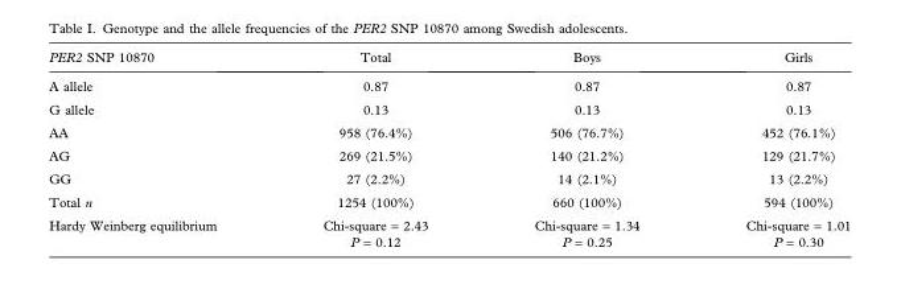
<table><thead><tr><td>PER2 SNP 10870</td><td>Total</td><td>Boys</td><td>Girls</td></tr></thead><tbody><tr><td>A allele</td><td>0.87</td><td>0.87</td><td>0.87</td></tr><tr><td>G allele</td><td>0.13</td><td>0.13</td><td>0.13</td></tr><tr><td>AA</td><td>958 (76.4%)</td><td>506 (76.7%)</td><td>452 (76.1%)</td></tr><tr><td>AG</td><td>269 (21.5%)</td><td>140 (21.2%)</td><td>129 (21.7%)</td></tr><tr><td>GG</td><td>27 (2.2%)</td><td>14 (2.1%)</td><td>13 (2.2%)</td></tr><tr><td>Total n</td><td>1254 (100%)</td><td>660 (100%)</td><td>594 (100%)</td></tr><tr><td>Hardy Weinberg equilibrium</td><td>Chi-square = 2.43 P = 0.12</td><td>Chi-square = 1.34 P = 0.25</td><td>Chi-square = 1.01 P = 0.30</td></tr></tbody></table>